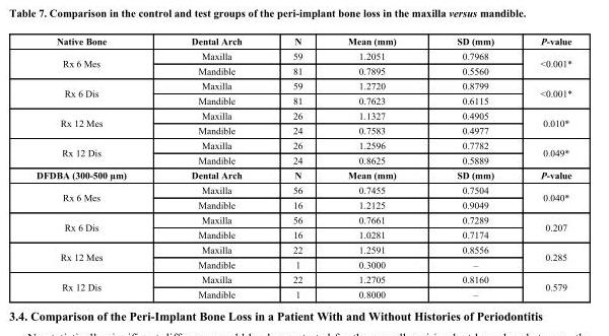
<table><thead><tr><td>Native Bone</td><td>Dental Arch</td><td>N</td><td>Mean (mm)</td><td>SD (mm)</td><td>P-value</td></tr></thead><tbody><tr><td rowspan="2">Rx 6 Mes</td><td>Maxilla</td><td>59</td><td>1.2051</td><td>0.7968</td><td rowspan="2">&lt;0.001*</td></tr><tr><td>Mandible</td><td>81</td><td>0.7895</td><td>0.5560</td></tr><tr><td rowspan="2">Rx 6 Dis</td><td>Maxilla</td><td>59</td><td>1.2720</td><td>0.8799</td><td rowspan="2">&lt;0.001*</td></tr><tr><td>Mandible</td><td>81</td><td>0.7623</td><td>0.6115</td></tr><tr><td rowspan="2">Rx 12 Mes</td><td>Maxilla</td><td>26</td><td>1.1327</td><td>0.4905</td><td rowspan="2">0.010*</td></tr><tr><td>Mandible</td><td>24</td><td>0.7583</td><td>0.4977</td></tr><tr><td rowspan="2">Rx 12 Dis</td><td>Maxilla</td><td>26</td><td>1.2596</td><td>0.7782</td><td rowspan="2">0.049*</td></tr><tr><td>Mandible</td><td>24</td><td>0.8625</td><td>0.5889</td></tr><tr><td>DFDBA (300-500 µm)</td><td>Dental Arch</td><td>N</td><td>Mean (mm)</td><td>SD (mm)</td><td>P-value</td></tr><tr><td rowspan="2">Rx 6 Mes</td><td>Maxilla</td><td>56</td><td>0.7455</td><td>0.7504</td><td rowspan="2">0.040*</td></tr><tr><td>Mandible</td><td>16</td><td>1.2125</td><td>0.9049</td></tr><tr><td rowspan="2">Rx 6 Dis</td><td>Maxilla</td><td>56</td><td>0.7661</td><td>0.7289</td><td rowspan="2">0.207</td></tr><tr><td>Mandible</td><td>16</td><td>1.0281</td><td>0.7174</td></tr><tr><td rowspan="2">Rx 12 Mes</td><td>Maxilla</td><td>22</td><td>1.2591</td><td>0.8556</td><td rowspan="2">0.285</td></tr><tr><td>Mandible</td><td>1</td><td>0.3000</td><td>–</td></tr><tr><td rowspan="2">Rx 12 Dis</td><td>Maxilla</td><td>22</td><td>1.2705</td><td>0.8160</td><td rowspan="2">0.579</td></tr><tr><td>Mandible</td><td>1</td><td>0.8000</td><td>–</td></tr></tbody></table>